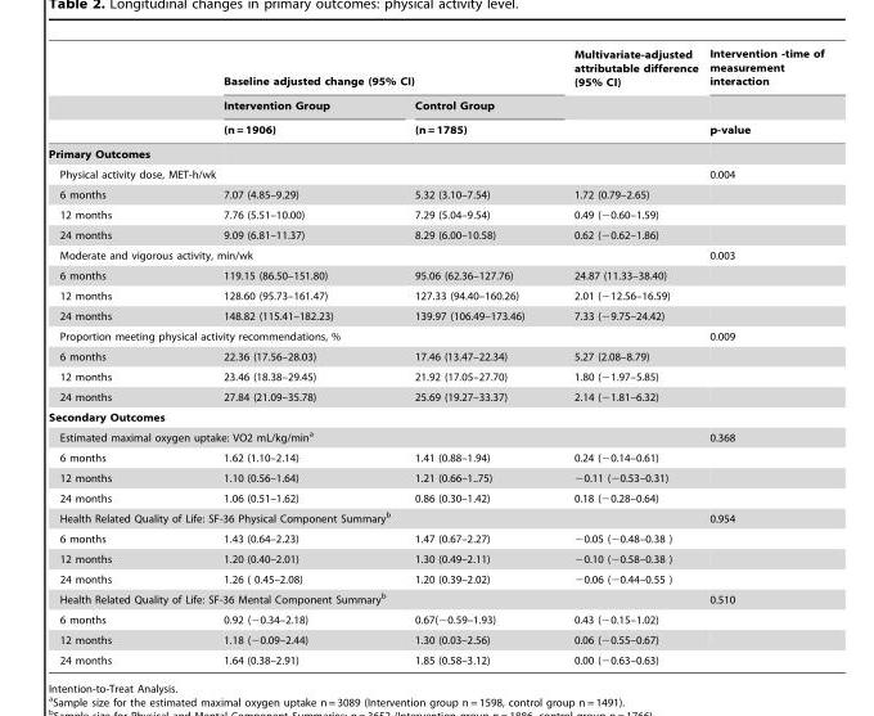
<table><thead><tr><td rowspan="3"></td><td colspan="2">Baseline adjusted change (95% CI)</td><td rowspan="3">Multivariate-adjusted attributable difference (95% CI)</td><td rowspan="3">Intervention -time of measurement interaction p-value</td></tr><tr><td rowspan="2">Intervention Group (n = 1906)</td><td rowspan="2">Control Group (n = 1785)</td></tr><tr></tr></thead><tbody><tr><td colspan="5">Primary Outcomes</td></tr><tr><td colspan="4">Physical activity dose, MET-h/wk</td><td>0.004</td></tr><tr><td>6 months</td><td>7.07 (4.85–9.29)</td><td>5.32 (3.10–7.54)</td><td>1.72 (0.79–2.65)</td><td></td></tr><tr><td>12 months</td><td>7.76 (5.51–10.00)</td><td>7.29 (5.04–9.54)</td><td>0.49 (−0.60–1.59)</td><td></td></tr><tr><td>24 months</td><td>9.09 (6.81–11.37)</td><td>8.29 (6.00–10.58)</td><td>0.62 (−0.62–1.86)</td><td></td></tr><tr><td colspan="4">Moderate and vigorous activity, min/wk</td><td>0.003</td></tr><tr><td>6 months</td><td>119.15 (86.50–151.80)</td><td>95.06 (62.36–127.76)</td><td>24.87 (11.33–38.40)</td><td></td></tr><tr><td>12 months</td><td>128.60 (95.73–161.47)</td><td>127.33 (94.40–160.26)</td><td>2.01 (−12.56–16.59)</td><td></td></tr><tr><td>24 months</td><td>148.82 (115.41–182.23)</td><td>139.97 (106.49–173.46)</td><td>7.33 (−9.75–24.42)</td><td></td></tr><tr><td colspan="4">Proportion meeting physical activity recommendations, %</td><td>0.009</td></tr><tr><td>6 months</td><td>22.36 (17.56–28.03)</td><td>17.46 (13.47–22.34)</td><td>5.27 (2.08–8.79)</td><td></td></tr><tr><td>12 months</td><td>23.46 (18.38–29.45)</td><td>21.92 (17.05–27.70)</td><td>1.80 (−1.97–5.85)</td><td></td></tr><tr><td>24 months</td><td>27.84 (21.09–35.78)</td><td>25.69 (19.27–33.37)</td><td>2.14 (−1.81–6.32)</td><td></td></tr><tr><td colspan="5">Secondary Outcomes</td></tr><tr><td colspan="4">Estimated maximal oxygen uptake: VO2 mL/kg/min<sup>a</sup></td><td>0.368</td></tr><tr><td>6 months</td><td>1.62 (1.10–2.14)</td><td>1.41 (0.88–1.94)</td><td>0.24 (−0.14–0.61)</td><td></td></tr><tr><td>12 months</td><td>1.10 (0.56–1.64)</td><td>1.21 (0.66–1..75)</td><td>−0.11 (−0.53–0.31)</td><td></td></tr><tr><td>24 months</td><td>1.06 (0.51–1.62)</td><td>0.86 (0.30–1.42)</td><td>0.18 (−0.28–0.64)</td><td></td></tr><tr><td colspan="4">Health Related Quality of Life: SF-36 Physical Component Summary<sup>b</sup></td><td>0.954</td></tr><tr><td>6 months</td><td>1.43 (0.64–2.23)</td><td>1.47 (0.67–2.27)</td><td>−0.05 (−0.48–0.38 )</td><td></td></tr><tr><td>12 months</td><td>1.20 (0.40–2.01)</td><td>1.30 (0.49–2.11)</td><td>−0.10 (−0.58–0.38 )</td><td></td></tr><tr><td>24 months</td><td>1.26 ( 0.45–2.08)</td><td>1.20 (0.39–2.02)</td><td>−0.06 (−0.44–0.55 )</td><td></td></tr><tr><td colspan="4">Health Related Quality of Life: SF-36 Mental Component Summary<sup>b</sup></td><td>0.510</td></tr><tr><td>6 months</td><td>0.92 (−0.34–2.18)</td><td>0.67(−0.59–1.93)</td><td>0.43 (−0.15–1.02)</td><td></td></tr><tr><td>12 months</td><td>1.18 (−0.09–2.44)</td><td>1.30 (0.03–2.56)</td><td>0.06 (−0.55–0.67)</td><td></td></tr><tr><td>24 months</td><td>1.64 (0.38–2.91)</td><td>1.85 (0.58–3.12)</td><td>0.00 (−0.63–0.63)</td><td></td></tr></tbody></table>